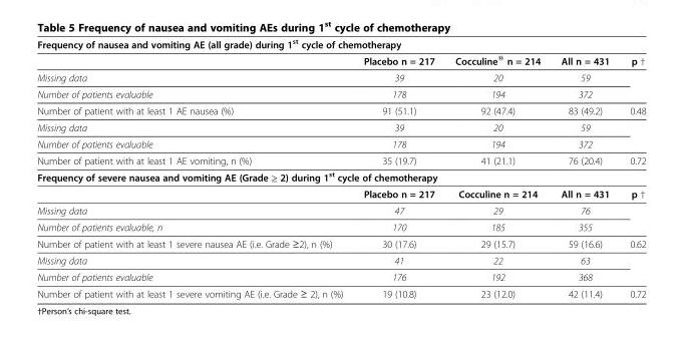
<table><thead><tr><td colspan="5">Frequency of nausea and vomiting AE (all grade) during 1<sup>st</sup> cycle of chemotherapy</td></tr><tr><td></td><td>Placebo n = 217</td><td>Cocculine<sup>®</sup> n = 214</td><td>All n = 431</td><td>p †</td></tr></thead><tbody><tr><td>Missing data</td><td>39</td><td>20</td><td>59</td><td></td></tr><tr><td>Number of patients evaluable</td><td>178</td><td>194</td><td>372</td><td></td></tr><tr><td>Number of patient with at least 1 AE nausea (%)</td><td>91 (51.1)</td><td>92 (47.4)</td><td>83 (49.2)</td><td>0.48</td></tr><tr><td>Missing data</td><td>39</td><td>20</td><td>59</td><td></td></tr><tr><td>Number of patients evaluable</td><td>178</td><td>194</td><td>372</td><td></td></tr><tr><td>Number of patient with at least 1 AE vomiting, n (%)</td><td>35 (19.7)</td><td>41 (21.1)</td><td>76 (20.4)</td><td>0.72</td></tr><tr><td colspan="5">Frequency of severe nausea and vomiting AE (Grade ≥ 2) during 1<sup>st</sup> cycle of chemotherapy</td></tr><tr><td></td><td>Placebo n = 217</td><td>Cocculine n = 214</td><td>All n = 431</td><td>p †</td></tr><tr><td>Missing data</td><td>47</td><td>29</td><td>76</td><td></td></tr><tr><td>Number of patients evaluable, n</td><td>170</td><td>185</td><td>355</td><td></td></tr><tr><td>Number of patient with at least 1 severe nausea AE (i.e. Grade ≥2), n (%)</td><td>30 (17.6)</td><td>29 (15.7)</td><td>59 (16.6)</td><td>0.62</td></tr><tr><td>Missing data</td><td>41</td><td>22</td><td>63</td><td></td></tr><tr><td>Number of patients evaluable</td><td>176</td><td>192</td><td>368</td><td></td></tr><tr><td>Number of patient with at least 1 severe vomiting AE (i.e. Grade ≥ 2), n (%)</td><td>19 (10.8)</td><td>23 (12.0)</td><td>42 (11.4)</td><td>0.72</td></tr></tbody></table>